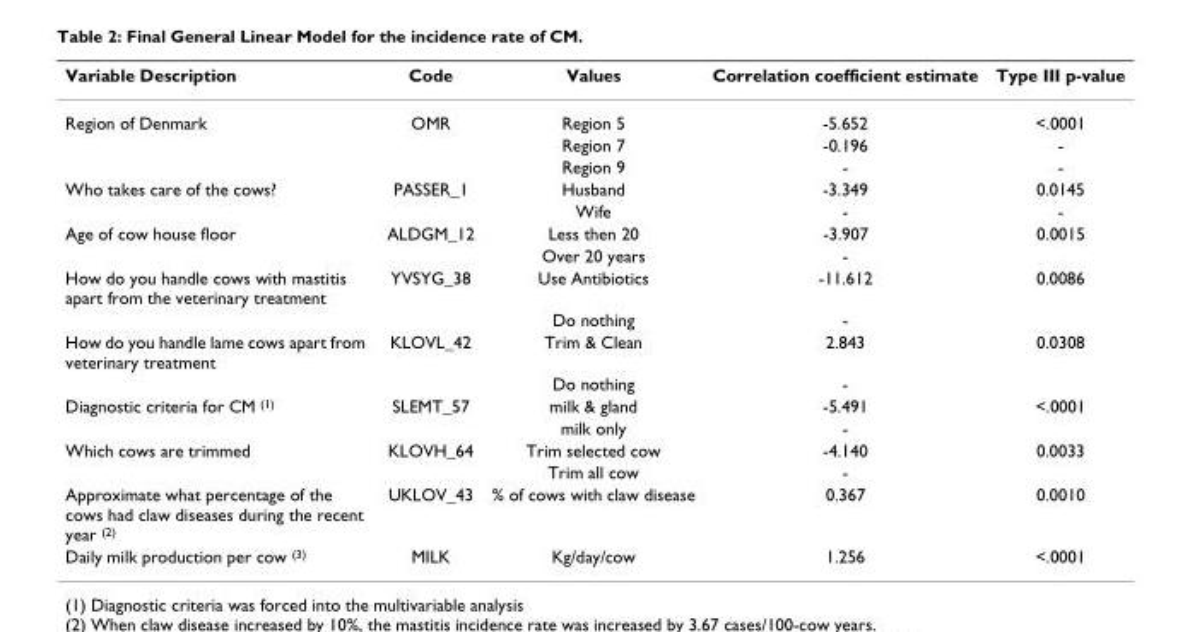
<table><thead><tr><td>Variable Description</td><td>Code</td><td>Values</td><td>Correlation coefficient estimate</td><td>Type III p-value</td></tr></thead><tbody><tr><td rowspan="3">Region of Denmark</td><td>OMR</td><td>Region 5</td><td>-5.652</td><td>&lt;.0001</td></tr><tr><td></td><td>Region 7</td><td>-0.196</td><td>-</td></tr><tr><td></td><td>Region 9</td><td>-</td><td>-</td></tr><tr><td rowspan="2">Who takes care of the cows?</td><td>PASSER_1</td><td>Husband</td><td>-3.349</td><td>0.0145</td></tr><tr><td></td><td>Wife</td><td>-</td><td>-</td></tr><tr><td rowspan="2">Age of cow house floor</td><td>ALDGM_12</td><td>Less then 20</td><td>-3.907</td><td>0.0015</td></tr><tr><td></td><td>Over 20 years</td><td>-</td><td></td></tr><tr><td rowspan="2">How do you handle cows with mastitis apart from the veterinary treatment</td><td>YVSYG_38</td><td>Use Antibiotics</td><td>-11.612</td><td>0.0086</td></tr><tr><td></td><td>Do nothing</td><td>-</td><td></td></tr><tr><td rowspan="2">How do you handle lame cows apart from veterinary treatment</td><td>KLOVL_42</td><td>Trim &amp; Clean</td><td>2.843</td><td>0.0308</td></tr><tr><td></td><td>Do nothing</td><td>-</td><td></td></tr><tr><td rowspan="2">Diagnostic criteria for CM <sup>(1)</sup></td><td>SLEMT_57</td><td>milk &amp; gland</td><td>-5.491</td><td>&lt;.0001</td></tr><tr><td></td><td>milk only</td><td>-</td><td></td></tr><tr><td rowspan="2">Which cows are trimmed</td><td>KLOVH_64</td><td>Trim selected cow</td><td>-4.140</td><td>0.0033</td></tr><tr><td></td><td>Trim all cow</td><td>-</td><td></td></tr><tr><td>Approximate what percentage of the cows had claw diseases during the recent year <sup>(2)</sup></td><td>UKLOV_43</td><td>% of cows with claw disease</td><td>0.367</td><td>0.0010</td></tr><tr><td>Daily milk production per cow <sup>(3)</sup></td><td>MILK</td><td>Kg/day/cow</td><td>1.256</td><td>&lt;.0001</td></tr></tbody></table>